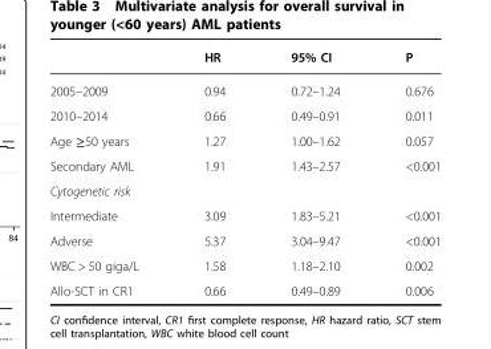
<table><thead><tr><td></td><td>HR</td><td>95% CI</td><td>P</td></tr></thead><tbody><tr><td>2005–2009</td><td>0.94</td><td>0.72–1.24</td><td>0.676</td></tr><tr><td>2010–2014</td><td>0.66</td><td>0.49–0.91</td><td>0.011</td></tr><tr><td>Age ≥50 years</td><td>1.27</td><td>1.00–1.62</td><td>0.057</td></tr><tr><td>Secondary AML</td><td>1.91</td><td>1.43–2.57</td><td>&lt;0.001</td></tr><tr><td colspan="4">Cytogenetic risk</td></tr><tr><td>Intermediate</td><td>3.09</td><td>1.83–5.21</td><td>&lt;0.001</td></tr><tr><td>Adverse</td><td>5.37</td><td>3.04–9.47</td><td>&lt;0.001</td></tr><tr><td>WBC &gt; 50 giga/L</td><td>1.58</td><td>1.18–2.10</td><td>0.002</td></tr><tr><td>Allo-SCT in CR1</td><td>0.66</td><td>0.49–0.89</td><td>0.006</td></tr></tbody></table>